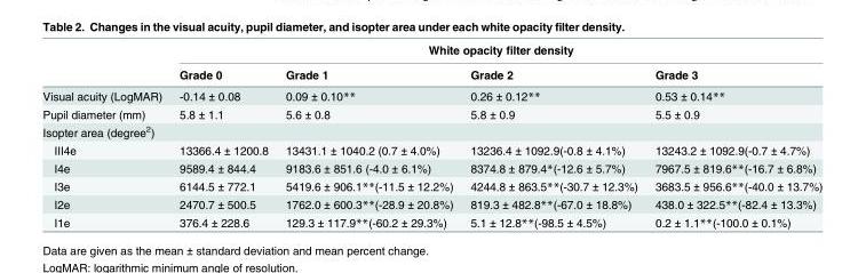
<table><thead><tr><td rowspan="2"></td><td colspan="4">White opacity filter density</td></tr><tr><td>Grade 0</td><td>Grade 1</td><td>Grade 2</td><td>Grade 3</td></tr></thead><tbody><tr><td>Visual acuity (LogMAR)</td><td>-0.14 ± 0.08</td><td>0.09 ± 0.10**</td><td>0.26 ± 0.12**</td><td>0.53 ± 0.14**</td></tr><tr><td>Pupil diameter (mm)</td><td>5.8 ± 1.1</td><td>5.6 ± 0.8</td><td>5.8 ± 0.9</td><td>5.5 ± 0.9</td></tr><tr><td colspan="5">Isopter area (degree<sup>2</sup>)</td></tr><tr><td>III4e</td><td>13366.4 ± 1200.8</td><td>13431.1 ± 1040.2 (0.7 ± 4.0%)</td><td>13236.4 ± 1092.9(-0.8 ± 4.1%)</td><td>13243.2 ± 1092.9(-0.7 ± 4.7%)</td></tr><tr><td>I4e</td><td>9589.4 ± 844.4</td><td>9183.6 ± 851.6 (-4.0 ± 6.1%)</td><td>8374.8 ± 879.4*(-12.6 ± 5.7%)</td><td>7967.5 ± 819.6**(-16.7 ± 6.8%)</td></tr><tr><td>I3e</td><td>6144.5 ± 772.1</td><td>5419.6 ± 906.1**(-11.5 ± 12.2%)</td><td>4244.8 ± 863.5**(-30.7 ± 12.3%)</td><td>3683.5 ± 956.6**(-40.0 ± 13.7%)</td></tr><tr><td>I2e</td><td>2470.7 ± 500.5</td><td>1762.0 ± 600.3**(-28.9 ± 20.8%)</td><td>819.3 ± 482.8**(-67.0 ± 18.8%)</td><td>438.0 ± 322.5**(-82.4 ± 13.3%)</td></tr><tr><td>I1e</td><td>376.4 ± 228.6</td><td>129.3 ± 117.9**(-60.2 ± 29.3%)</td><td>5.1 ± 12.8**(-98.5 ± 4.5%)</td><td>0.2 ± 1.1**(-100.0 ± 0.1%)</td></tr></tbody></table>